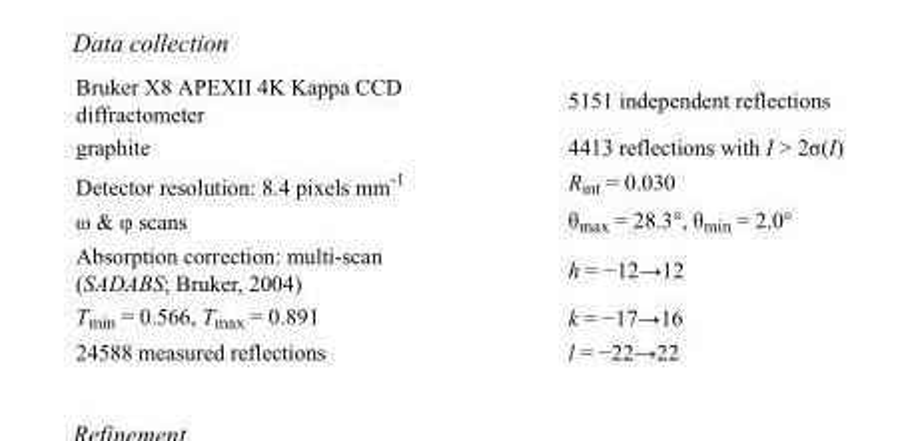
<table><tbody><tr><td>Bruker X8 APEXII 4K Kappa CCD diffractometer</td><td>5151 independent reflections</td></tr><tr><td>graphite</td><td>4413 reflections with I &gt; 2σ(I)</td></tr><tr><td>Detector resolution: 8.4 pixels mm<sup>-1</sup></td><td>R<sub>int</sub> = 0.030</td></tr><tr><td>ω &amp; φ scans</td><td>θ<sub>max</sub> = 28.3°, θ<sub>min</sub> = 2.0°</td></tr><tr><td>Absorption correction: multi-scan (SADABS; Bruker, 2004)</td><td>h = −12→12</td></tr><tr><td>T<sub>min</sub> = 0.566, T<sub>max</sub> = 0.891</td><td>k = −17→16</td></tr><tr><td>24588 measured reflections</td><td>l = −22→22</td></tr></tbody></table>